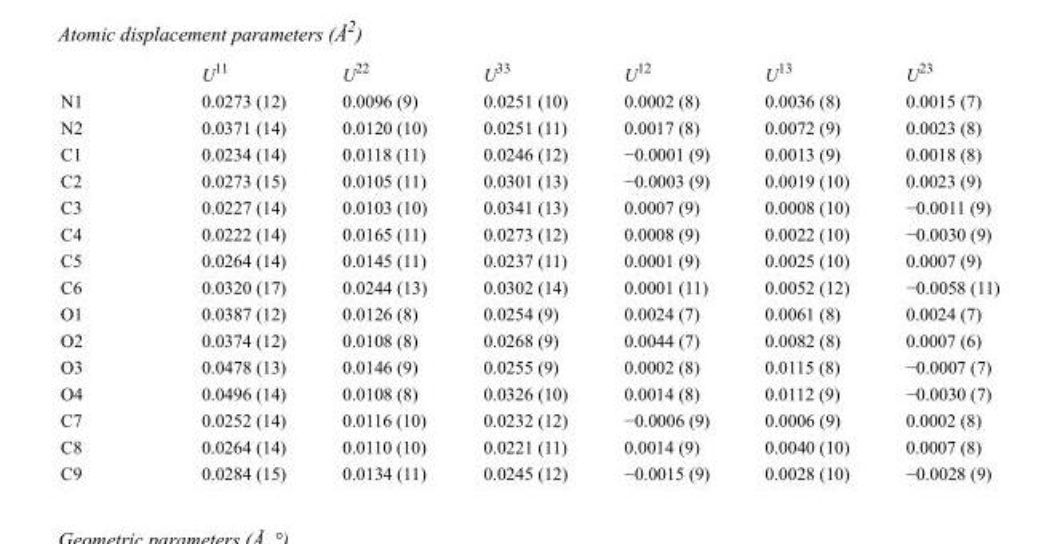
<table><thead><tr><td></td><td>U<sup>11</sup></td><td>U<sup>22</sup></td><td>U<sup>33</sup></td><td>U<sup>12</sup></td><td>U<sup>13</sup></td><td>U<sup>23</sup></td></tr></thead><tbody><tr><td>N1</td><td>0.0273 (12)</td><td>0.0096 (9)</td><td>0.0251 (10)</td><td>0.0002 (8)</td><td>0.0036 (8)</td><td>0.0015 (7)</td></tr><tr><td>N2</td><td>0.0371 (14)</td><td>0.0120 (10)</td><td>0.0251 (11)</td><td>0.0017 (8)</td><td>0.0072 (9)</td><td>0.0023 (8)</td></tr><tr><td>C1</td><td>0.0234 (14)</td><td>0.0118 (11)</td><td>0.0246 (12)</td><td>−0.0001 (9)</td><td>0.0013 (9)</td><td>0.0018 (8)</td></tr><tr><td>C2</td><td>0.0273 (15)</td><td>0.0105 (11)</td><td>0.0301 (13)</td><td>−0.0003 (9)</td><td>0.0019 (10)</td><td>0.0023 (9)</td></tr><tr><td>C3</td><td>0.0227 (14)</td><td>0.0103 (10)</td><td>0.0341 (13)</td><td>0.0007 (9)</td><td>0.0008 (10)</td><td>−0.0011 (9)</td></tr><tr><td>C4</td><td>0.0222 (14)</td><td>0.0165 (11)</td><td>0.0273 (12)</td><td>0.0008 (9)</td><td>0.0022 (10)</td><td>−0.0030 (9)</td></tr><tr><td>C5</td><td>0.0264 (14)</td><td>0.0145 (11)</td><td>0.0237 (11)</td><td>0.0001 (9)</td><td>0.0025 (10)</td><td>0.0007 (9)</td></tr><tr><td>C6</td><td>0.0320 (17)</td><td>0.0244 (13)</td><td>0.0302 (14)</td><td>0.0001 (11)</td><td>0.0052 (12)</td><td>−0.0058 (11)</td></tr><tr><td>O1</td><td>0.0387 (12)</td><td>0.0126 (8)</td><td>0.0254 (9)</td><td>0.0024 (7)</td><td>0.0061 (8)</td><td>0.0024 (7)</td></tr><tr><td>O2</td><td>0.0374 (12)</td><td>0.0108 (8)</td><td>0.0268 (9)</td><td>0.0044 (7)</td><td>0.0082 (8)</td><td>0.0007 (6)</td></tr><tr><td>O3</td><td>0.0478 (13)</td><td>0.0146 (9)</td><td>0.0255 (9)</td><td>0.0002 (8)</td><td>0.0115 (8)</td><td>−0.0007 (7)</td></tr><tr><td>O4</td><td>0.0496 (14)</td><td>0.0108 (8)</td><td>0.0326 (10)</td><td>0.0014 (8)</td><td>0.0112 (9)</td><td>−0.0030 (7)</td></tr><tr><td>C7</td><td>0.0252 (14)</td><td>0.0116 (10)</td><td>0.0232 (12)</td><td>−0.0006 (9)</td><td>0.0006 (9)</td><td>0.0002 (8)</td></tr><tr><td>C8</td><td>0.0264 (14)</td><td>0.0110 (10)</td><td>0.0221 (11)</td><td>0.0014 (9)</td><td>0.0040 (10)</td><td>0.0007 (8)</td></tr><tr><td>C9</td><td>0.0284 (15)</td><td>0.0134 (11)</td><td>0.0245 (12)</td><td>−0.0015 (9)</td><td>0.0028 (10)</td><td>−0.0028 (9)</td></tr></tbody></table>